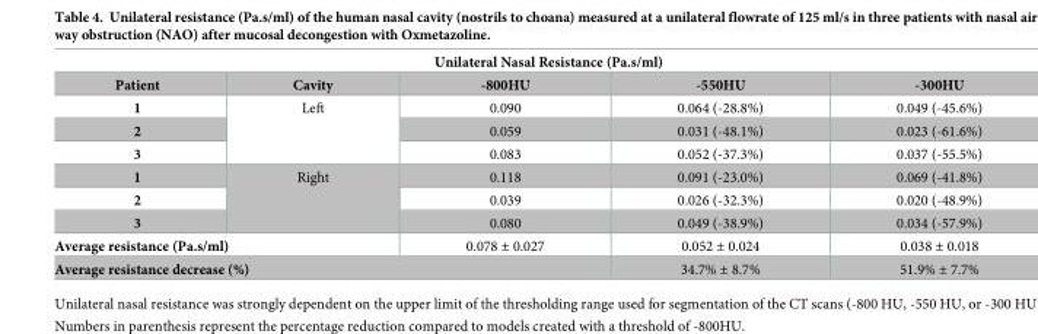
<table><thead><tr><td colspan="5">Unilateral Nasal Resistance (Pa.s/ml)</td></tr><tr><td>Patient</td><td>Cavity</td><td>-800HU</td><td>-550HU</td><td>-300HU</td></tr></thead><tbody><tr><td>1</td><td rowspan="3">Left</td><td>0.090</td><td>0.064 (-28.8%)</td><td>0.049 (-45.6%)</td></tr><tr><td>2</td><td>0.059</td><td>0.031 (-48.1%)</td><td>0.023 (-61.6%)</td></tr><tr><td>3</td><td>0.083</td><td>0.052 (-37.3%)</td><td>0.037 (-55.5%)</td></tr><tr><td>1</td><td rowspan="3">Right</td><td>0.118</td><td>0.091 (-23.0%)</td><td>0.069 (-41.8%)</td></tr><tr><td>2</td><td>0.039</td><td>0.026 (-32.3%)</td><td>0.020 (-48.9%)</td></tr><tr><td>3</td><td>0.080</td><td>0.049 (-38.9%)</td><td>0.034 (-57.9%)</td></tr><tr><td colspan="2">Average resistance (Pa.s/ml)</td><td>0.078 ± 0.027</td><td>0.052 ± 0.024</td><td>0.038 ± 0.018</td></tr><tr><td colspan="3">Average resistance decrease (%)</td><td>34.7% ± 8.7%</td><td>51.9% ± 7.7%</td></tr></tbody></table>